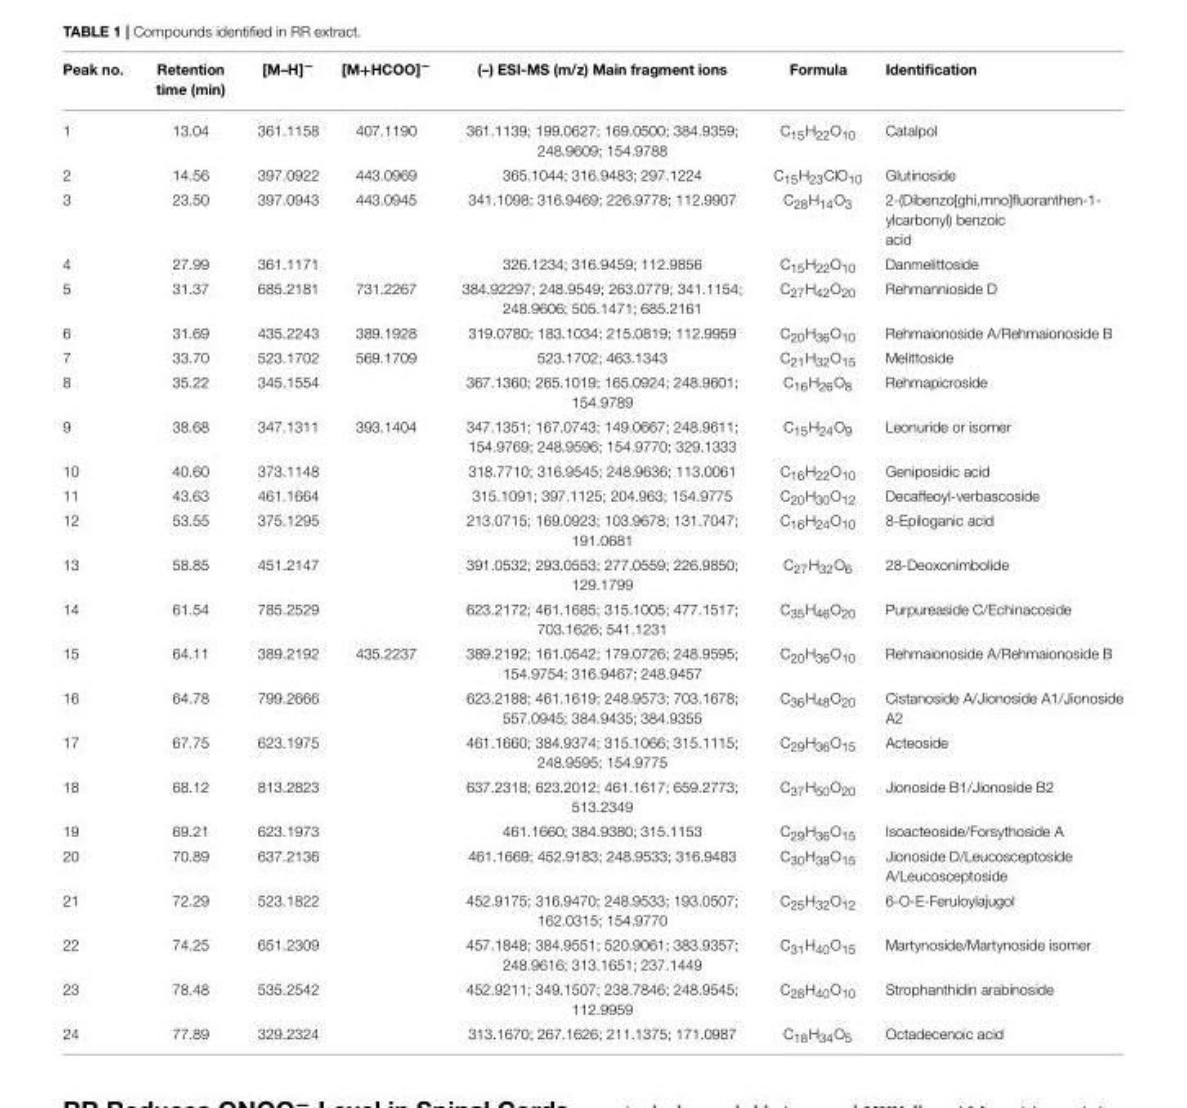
<table><thead><tr><td>Peak no.</td><td>Retention time (min)</td><td>[M–H]<sup>−</sup></td><td>[M+HCOO]<sup>−</sup></td><td>(–) ESI-MS (m/z) Main fragment ions</td><td>Formula</td><td>Identification</td></tr></thead><tbody><tr><td>1</td><td>13.04</td><td>361.1158</td><td>407.1190</td><td>361.1139; 199.0627; 169.0500; 384.9359; 248.9609; 154.9788</td><td>C<sub>15</sub>H<sub>22</sub>O<sub>10</sub></td><td>Catalpol</td></tr><tr><td>2</td><td>14.56</td><td>397.0922</td><td>443.0969</td><td>365.1044; 316.9483; 297.1224</td><td>C<sub>15</sub>H<sub>23</sub>ClO<sub>10</sub></td><td>Glutinoside</td></tr><tr><td>3</td><td>23.50</td><td>397.0943</td><td>443.0945</td><td>341.1098; 316.9469; 226.9778; 112.9907</td><td>C<sub>28</sub>H<sub>14</sub>O<sub>3</sub></td><td>2-(Dibenzo[ghi,mno]fluoranthen-1- ylcarbonyl) benzoic acid</td></tr><tr><td>4</td><td>27.99</td><td>361.1171</td><td></td><td>326.1234; 316.9459; 112.9856</td><td>C<sub>15</sub>H<sub>22</sub>O<sub>10</sub></td><td>Danmelittoside</td></tr><tr><td>5</td><td>31.37</td><td>685.2181</td><td>731.2267</td><td>384.92297; 248.9549; 263.0779; 341.1154; 248.9606; 505.1471; 685.2161</td><td>C<sub>27</sub>H<sub>42</sub>O<sub>20</sub></td><td>Rehmannioside D</td></tr><tr><td>6</td><td>31.69</td><td>435.2243</td><td>389.1928</td><td>319.0780; 183.1034; 215.0819; 112.9959</td><td>C<sub>20</sub>H<sub>36</sub>O<sub>10</sub></td><td>Rehmaionoside A/Rehmaionoside B</td></tr><tr><td>7</td><td>33.70</td><td>523.1702</td><td>569.1709</td><td>523.1702; 463.1343</td><td>C<sub>21</sub>H<sub>32</sub>O<sub>15</sub></td><td>Melittoside</td></tr><tr><td>8</td><td>35.22</td><td>345.1554</td><td></td><td>367.1360; 265.1019; 165.0924; 248.9601; 154.9789</td><td>C<sub>16</sub>H<sub>26</sub>O<sub>8</sub></td><td>Rehmapicroside</td></tr><tr><td>9</td><td>38.68</td><td>347.1311</td><td>393.1404</td><td>347.1351; 167.0743; 149.0667; 248.9611; 154.9769; 248.9596; 154.9770; 329.1333</td><td>C<sub>15</sub>H<sub>24</sub>O<sub>9</sub></td><td>Leonuride or isomer</td></tr><tr><td>10</td><td>40.60</td><td>373.1148</td><td></td><td>318.7710; 316.9545; 248.9636; 113.0061</td><td>C<sub>16</sub>H<sub>22</sub>O<sub>10</sub></td><td>Geniposidic acid</td></tr><tr><td>11</td><td>43.63</td><td>461.1664</td><td></td><td>315.1091; 397.1125; 204.963; 154.9775</td><td>C<sub>20</sub>H<sub>30</sub>O<sub>12</sub></td><td>Decaffeoyl-verbascoside</td></tr><tr><td>12</td><td>53.55</td><td>375.1295</td><td></td><td>213.0715; 169.0923; 103.9678; 131.7047; 191.0681</td><td>C<sub>16</sub>H<sub>24</sub>O<sub>10</sub></td><td>8-Epiloganic acid</td></tr><tr><td>13</td><td>58.85</td><td>451.2147</td><td></td><td>391.0532; 293.0553; 277.0559; 226.9850; 129.1799</td><td>C<sub>27</sub>H<sub>32</sub>O<sub>6</sub></td><td>28-Deoxonimbolide</td></tr><tr><td>14</td><td>61.54</td><td>785.2529</td><td></td><td>623.2172; 461.1685; 315.1005; 477.1517; 703.1626; 541.1231</td><td>C<sub>35</sub>H<sub>46</sub>O<sub>20</sub></td><td>Purpureaside C/Echinacoside</td></tr><tr><td>15</td><td>64.11</td><td>389.2192</td><td>435.2237</td><td>389.2192; 161.0542; 179.0726; 248.9595; 154.9754; 316.9467; 248.9457</td><td>C<sub>20</sub>H<sub>36</sub>O<sub>10</sub></td><td>Rehmaionoside A/Rehmaionoside B</td></tr><tr><td>16</td><td>64.78</td><td>799.2666</td><td></td><td>623.2188; 461.1619; 248.9573; 703.1678; 557.0945; 384.9435; 384.9355</td><td>C<sub>36</sub>H<sub>48</sub>O<sub>20</sub></td><td>Cistanoside A/Jionoside A1/Jionoside A2</td></tr><tr><td>17</td><td>67.75</td><td>623.1975</td><td></td><td>461.1660; 384.9374; 315.1066; 315.1115; 248.9595; 154.9775</td><td>C<sub>29</sub>H<sub>36</sub>O<sub>15</sub></td><td>Acteoside</td></tr><tr><td>18</td><td>68.12</td><td>813.2823</td><td></td><td>637.2318; 623.2012; 461.1617; 659.2773; 513.2349</td><td>C<sub>37</sub>H<sub>50</sub>O<sub>20</sub></td><td>Jionoside B1/Jionoside B2</td></tr><tr><td>19</td><td>69.21</td><td>623.1973</td><td></td><td>461.1660; 384.9380; 315.1153</td><td>C<sub>29</sub>H<sub>36</sub>O<sub>15</sub></td><td>Isoacteoside/Forsythoside A</td></tr><tr><td>20</td><td>70.89</td><td>637.2136</td><td></td><td>461.1669; 452.9183; 248.9533; 316.9483</td><td>C<sub>30</sub>H<sub>38</sub>O<sub>15</sub></td><td>Jionoside D/Leucosceptoside A/Leucosceptoside</td></tr><tr><td>21</td><td>72.29</td><td>523.1822</td><td></td><td>452.9175; 316.9470; 248.9533; 193.0507; 162.0315; 154.9770</td><td>C<sub>25</sub>H<sub>32</sub>O<sub>12</sub></td><td>6-O-E-Feruloylajugol</td></tr><tr><td>22</td><td>74.25</td><td>651.2309</td><td></td><td>457.1848; 384.9551; 520.9061; 383.9357; 248.9616; 313.1651; 237.1449</td><td>C<sub>31</sub>H<sub>40</sub>O<sub>15</sub></td><td>Martynoside/Martynoside isomer</td></tr><tr><td>23</td><td>78.48</td><td>535.2542</td><td></td><td>452.9211; 349.1507; 238.7846; 248.9545; 112.9959</td><td>C<sub>28</sub>H<sub>40</sub>O<sub>10</sub></td><td>Strophanthidin arabinoside</td></tr><tr><td>24</td><td>77.89</td><td>329.2324</td><td></td><td>313.1670; 267.1626; 211.1375; 171.0987</td><td>C<sub>18</sub>H<sub>34</sub>O<sub>5</sub></td><td>Octadecenoic acid</td></tr></tbody></table>